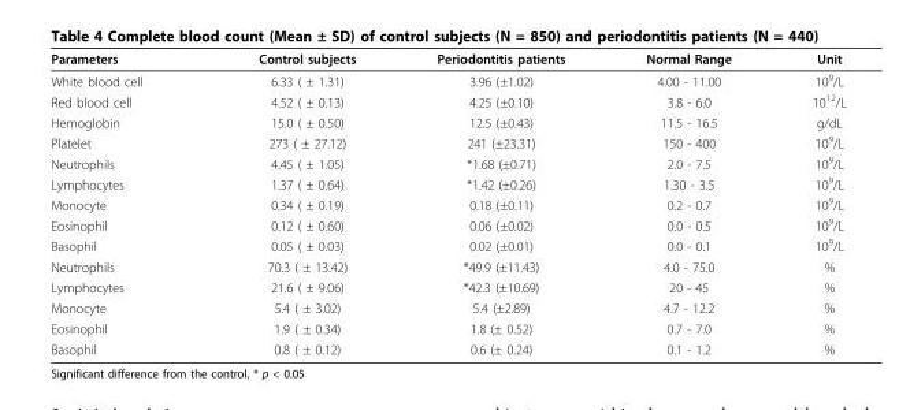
<table><thead><tr><td>Parameters</td><td>Control subjects</td><td>Periodontitis patients</td><td>Normal Range</td><td>Unit</td></tr></thead><tbody><tr><td>White blood cell</td><td>6.33 ( ± 1.31)</td><td>3.96 (±1.02)</td><td>4.00 - 11.00</td><td>10<sup>9</sup>/L</td></tr><tr><td>Red blood cell</td><td>4.52 ( ± 0.13)</td><td>4.25 (±0.10)</td><td>3.8 - 6.0</td><td>10<sup>12</sup>/L</td></tr><tr><td>Hemoglobin</td><td>15.0 ( ± 0.50)</td><td>12.5 (±0.43)</td><td>11.5 - 16.5</td><td>g/dL</td></tr><tr><td>Platelet</td><td>273 ( ± 27.12)</td><td>241 (±23.31)</td><td>150 - 400</td><td>10<sup>9</sup>/L</td></tr><tr><td>Neutrophils</td><td>4.45 ( ± 1.05)</td><td>*1.68 (±0.71)</td><td>2.0 - 7.5</td><td>10<sup>9</sup>/L</td></tr><tr><td>Lymphocytes</td><td>1.37 ( ± 0.64)</td><td>*1.42 (±0.26)</td><td>1.30 - 3.5</td><td>10<sup>9</sup>/L</td></tr><tr><td>Monocyte</td><td>0.34 ( ± 0.19)</td><td>0.18 (±0.11)</td><td>0.2 - 0.7</td><td>10<sup>9</sup>/L</td></tr><tr><td>Eosinophil</td><td>0.12 ( ± 0.60)</td><td>0.06 (±0.02)</td><td>0.0 - 0.5</td><td>10<sup>9</sup>/L</td></tr><tr><td>Basophil</td><td>0.05 ( ± 0.03)</td><td>0.02 (±0.01)</td><td>0.0 - 0.1</td><td>10<sup>9</sup>/L</td></tr><tr><td>Neutrophils</td><td>70.3 ( ± 13.42)</td><td>*49.9 (±11.43)</td><td>4.0 - 75.0</td><td>%</td></tr><tr><td>Lymphocytes</td><td>21.6 ( ± 9.06)</td><td>*42.3 (±10.69)</td><td>20 - 45</td><td>%</td></tr><tr><td>Monocyte</td><td>5.4 ( ± 3.02)</td><td>5.4 (±2.89)</td><td>4.7 - 12.2</td><td>%</td></tr><tr><td>Eosinophil</td><td>1.9 ( ± 0.34)</td><td>1.8 (± 0.52)</td><td>0.7 - 7.0</td><td>%</td></tr><tr><td>Basophil</td><td>0.8 ( ± 0.12)</td><td>0.6 (± 0.24)</td><td>0.1 - 1.2</td><td>%</td></tr></tbody></table>